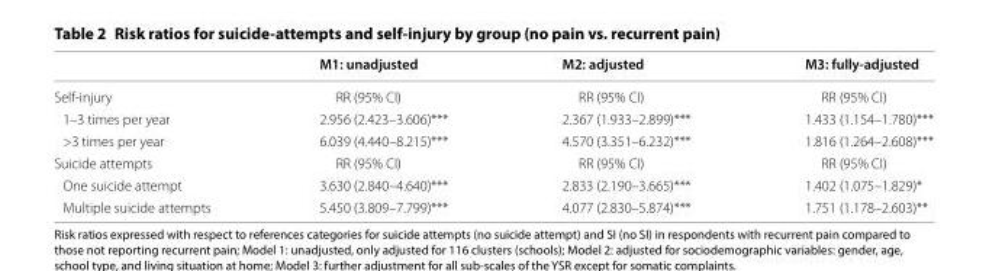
<table><thead><tr><td></td><td>M1: unadjusted</td><td>M2: adjusted</td><td>M3: fully-adjusted</td></tr></thead><tbody><tr><td>Self‑injury</td><td>RR (95% CI)</td><td>RR (95% CI)</td><td>RR (95% CI)</td></tr><tr><td>1–3 times per year</td><td>2.956 (2.423–3.606)***</td><td>2.367 (1.933–2.899)***</td><td>1.433 (1.154–1.780)***</td></tr><tr><td>&gt;3 times per year</td><td>6.039 (4.440–8.215)***</td><td>4.570 (3.351–6.232)***</td><td>1.816 (1.264–2.608)***</td></tr><tr><td>Suicide attempts</td><td>RR (95% CI)</td><td>RR (95% CI)</td><td>RR (95% CI)</td></tr><tr><td>One suicide attempt</td><td>3.630 (2.840–4.640)***</td><td>2.833 (2.190–3.665)***</td><td>1.402 (1.075–1.829)*</td></tr><tr><td>Multiple suicide attempts</td><td>5.450 (3.809–7.799)***</td><td>4.077 (2.830–5.874)***</td><td>1.751 (1.178–2.603)**</td></tr></tbody></table>